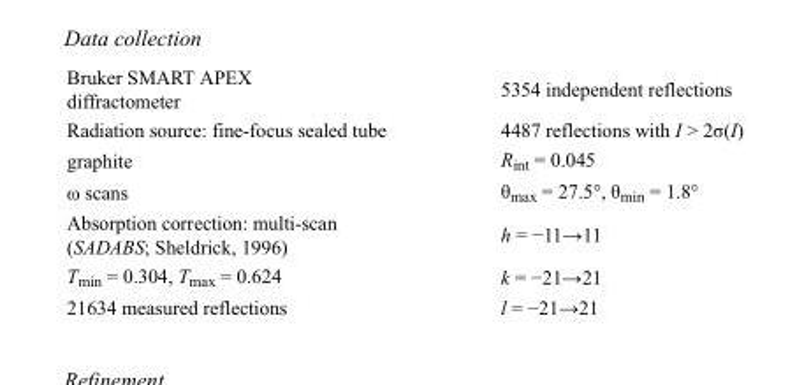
<table><tbody><tr><td>Bruker SMART APEX diffractometer</td><td>5354 independent reflections</td></tr><tr><td>Radiation source: fine-focus sealed tube</td><td>4487 reflections with I &gt; 2σ(I)</td></tr><tr><td>graphite</td><td>R<sub>int</sub> = 0.045</td></tr><tr><td>ω scans</td><td>θ<sub>max</sub> = 27.5°, θ<sub>min</sub> = 1.8°</td></tr><tr><td>Absorption correction: multi-scan (SADABS; Sheldrick, 1996)</td><td>h = −11→11</td></tr><tr><td>T<sub>min</sub> = 0.304, T<sub>max</sub> = 0.624</td><td>k = −21→21</td></tr><tr><td>21634 measured reflections</td><td>l = −21→21</td></tr></tbody></table>